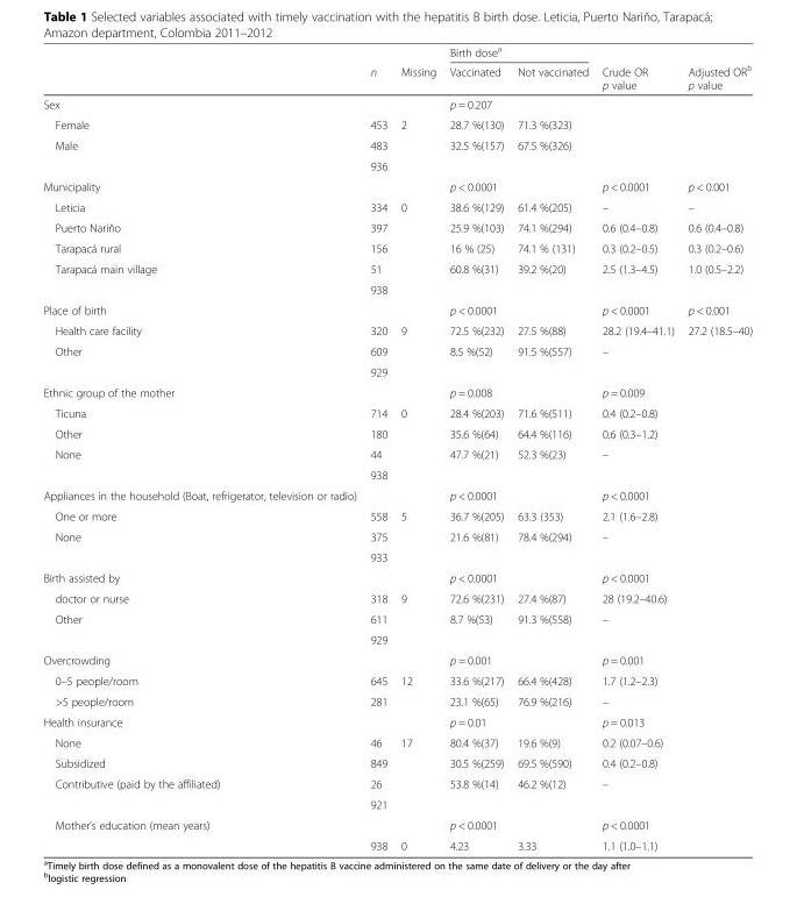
<table><thead><tr><td rowspan="3"></td><td rowspan="3">n</td><td rowspan="3">Missing</td><td colspan="2">Birth dose<sup>a</sup></td><td rowspan="3">Crude OR p value</td><td rowspan="3">Adjusted OR<sup>b</sup> p value</td></tr><tr><td rowspan="2">Vaccinated</td><td rowspan="2">Not vaccinated</td></tr><tr></tr></thead><tbody><tr><td>Sex</td><td></td><td></td><td colspan="2">p = 0.207</td><td></td><td></td></tr><tr><td>Female</td><td>453</td><td>2</td><td>28.7 %(130)</td><td>71.3 %(323)</td><td></td><td></td></tr><tr><td rowspan="2">Male</td><td>483</td><td></td><td>32.5 %(157)</td><td>67.5 %(326)</td><td></td><td></td></tr><tr><td>936</td><td></td><td></td><td></td><td></td><td></td></tr><tr><td>Municipality</td><td></td><td></td><td colspan="2">p &lt; 0.0001</td><td>p &lt; 0.0001</td><td>p &lt; 0.001</td></tr><tr><td>Leticia</td><td>334</td><td>0</td><td>38.6 %(129)</td><td>61.4 %(205)</td><td>–</td><td>–</td></tr><tr><td>Puerto Nariño</td><td>397</td><td></td><td>25.9 %(103)</td><td>74.1 %(294)</td><td>0.6 (0.4–0.8)</td><td>0.6 (0.4–0.8)</td></tr><tr><td>Tarapacá rural</td><td>156</td><td></td><td>16 % (25)</td><td>74.1 % (131)</td><td>0.3 (0.2–0.5)</td><td>0.3 (0.2–0.6)</td></tr><tr><td rowspan="2">Tarapacá main village</td><td>51</td><td></td><td>60.8 %(31)</td><td>39.2 %(20)</td><td>2.5 (1.3–4.5)</td><td>1.0 (0.5–2.2)</td></tr><tr><td>938</td><td></td><td></td><td></td><td></td><td></td></tr><tr><td>Place of birth</td><td></td><td></td><td colspan="2">p &lt; 0.0001</td><td>p &lt; 0.0001</td><td>p &lt; 0.001</td></tr><tr><td>Health care facility</td><td>320</td><td>9</td><td>72.5 %(232)</td><td>27.5 %(88)</td><td>28.2 (19.4–41.1)</td><td>27.2 (18.5–40)</td></tr><tr><td rowspan="2">Other</td><td>609</td><td></td><td>8.5 %(52)</td><td>91.5 %(557)</td><td>–</td><td></td></tr><tr><td>929</td><td></td><td></td><td></td><td></td><td></td></tr><tr><td>Ethnic group of the mother</td><td></td><td></td><td colspan="2">p = 0.008</td><td>p = 0.009</td><td></td></tr><tr><td>Ticuna</td><td>714</td><td>0</td><td>28.4 %(203)</td><td>71.6 %(511)</td><td>0.4 (0.2–0.8)</td><td></td></tr><tr><td>Other</td><td>180</td><td></td><td>35.6 %(64)</td><td>64.4 %(116)</td><td>0.6 (0.3–1.2)</td><td></td></tr><tr><td rowspan="2">None</td><td>44</td><td></td><td>47.7 %(21)</td><td>52.3 %(23)</td><td>–</td><td></td></tr><tr><td>938</td><td></td><td></td><td></td><td></td><td></td></tr><tr><td>Appliances in the household (Boat, refrigerator, television or radio)</td><td></td><td></td><td colspan="2">p &lt; 0.0001</td><td>p &lt; 0.0001</td><td></td></tr><tr><td>One or more</td><td>558</td><td>5</td><td>36.7 %(205)</td><td>63.3 (353)</td><td>2.1 (1.6–2.8)</td><td></td></tr><tr><td rowspan="2">None</td><td>375</td><td></td><td>21.6 %(81)</td><td>78.4 %(294)</td><td>–</td><td></td></tr><tr><td>933</td><td></td><td></td><td></td><td></td><td></td></tr><tr><td>Birth assisted by</td><td></td><td></td><td colspan="2">p &lt; 0.0001</td><td>p &lt; 0.0001</td><td></td></tr><tr><td>doctor or nurse</td><td>318</td><td>9</td><td>72.6 %(231)</td><td>27.4 %(87)</td><td>28 (19.2–40.6)</td><td></td></tr><tr><td rowspan="2">Other</td><td>611</td><td></td><td>8.7 %(53)</td><td>91.3 %(558)</td><td>–</td><td></td></tr><tr><td>929</td><td></td><td></td><td></td><td></td><td></td></tr><tr><td>Overcrowding</td><td></td><td></td><td colspan="2">p = 0.001</td><td>p = 0.001</td><td></td></tr><tr><td>0–5 people/room</td><td>645</td><td>12</td><td>33.6 %(217)</td><td>66.4 %(428)</td><td>1.7 (1.2–2.3)</td><td></td></tr><tr><td>&gt;5 people/room</td><td>281</td><td></td><td>23.1 %(65)</td><td>76.9 %(216)</td><td>–</td><td></td></tr><tr><td>Health insurance</td><td></td><td></td><td colspan="2">p = 0.01</td><td>p = 0.013</td><td></td></tr><tr><td>None</td><td>46</td><td>17</td><td>80.4 %(37)</td><td>19.6 %(9)</td><td>0.2 (0.07–0.6)</td><td></td></tr><tr><td>Subsidized</td><td>849</td><td></td><td>30.5 %(259)</td><td>69.5 %(590)</td><td>0.4 (0.2–0.8)</td><td></td></tr><tr><td rowspan="2">Contributive (paid by the affiliated)</td><td>26</td><td></td><td>53.8 %(14)</td><td>46.2 %(12)</td><td>–</td><td></td></tr><tr><td>921</td><td></td><td></td><td></td><td></td><td></td></tr><tr><td rowspan="2">Mother’s education (mean years)</td><td></td><td></td><td colspan="2">p &lt; 0.0001</td><td>p &lt; 0.0001</td><td></td></tr><tr><td>938</td><td>0</td><td>4.23</td><td>3.33</td><td>1.1 (1.0–1.1)</td><td></td></tr></tbody></table>